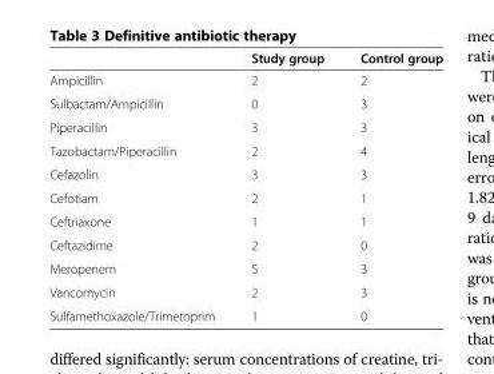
<table><thead><tr><td></td><td>Study group</td><td>Control group</td></tr></thead><tbody><tr><td>Ampicillin</td><td>2</td><td>2</td></tr><tr><td>Sulbactam/Ampicillin</td><td>0</td><td>3</td></tr><tr><td>Piperacillin</td><td>3</td><td>3</td></tr><tr><td>Tazobactam/Piperacillin</td><td>2</td><td>4</td></tr><tr><td>Cefazolin</td><td>3</td><td>3</td></tr><tr><td>Cefotiam</td><td>2</td><td>1</td></tr><tr><td>Ceftriaxone</td><td>1</td><td>1</td></tr><tr><td>Ceftazidime</td><td>2</td><td>0</td></tr><tr><td>Meropenem</td><td>5</td><td>3</td></tr><tr><td>Vancomycin</td><td>2</td><td>3</td></tr><tr><td>Sulfamethoxazole/Trimetoprim</td><td>1</td><td>0</td></tr></tbody></table>